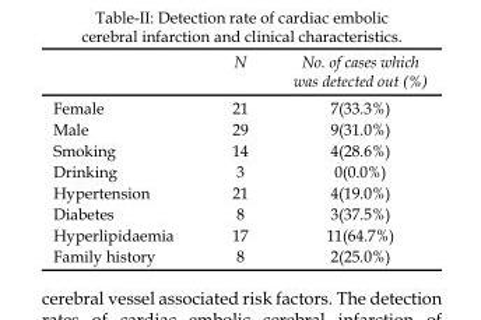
<table><thead><tr><td></td><td>N</td><td>No. of cases which was detected out (%)</td></tr></thead><tbody><tr><td>Female</td><td>21</td><td>7(33.3%)</td></tr><tr><td>Male</td><td>29</td><td>9(31.0%)</td></tr><tr><td>Smoking</td><td>14</td><td>4(28.6%)</td></tr><tr><td>Drinking</td><td>3</td><td>0(0.0%)</td></tr><tr><td>Hypertension</td><td>21</td><td>4(19.0%)</td></tr><tr><td>Diabetes</td><td>8</td><td>3(37.5%)</td></tr><tr><td>Hyperlipidaemia</td><td>17</td><td>11(64.7%)</td></tr><tr><td>Family history</td><td>8</td><td>2(25.0%)</td></tr></tbody></table>